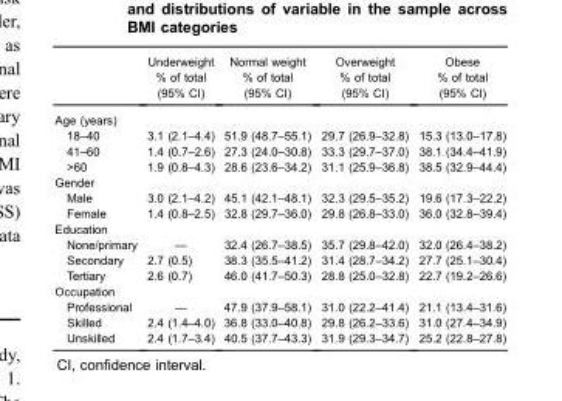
<table><thead><tr><td rowspan="2"></td><td rowspan="2">Underweight % of total (95% CI)</td><td rowspan="2">Normal weight % of total (95% CI)</td><td rowspan="2">Overweight % of total (95% CI)</td><td rowspan="2">Obese % of total (95% CI)</td></tr><tr></tr></thead><tbody><tr><td colspan="5">Age (years)</td></tr><tr><td>18–40</td><td>3.1 (2.1–4.4)</td><td>51.9 (48.7–55.1)</td><td>29.7 (26.9–32.8)</td><td>15.3 (13.0–17.8)</td></tr><tr><td>41–60</td><td>1.4 (0.7–2.6)</td><td>27.3 (24.0–30.8)</td><td>33.3 (29.7–37.0)</td><td>38.1 (34.4–41.9)</td></tr><tr><td>&gt;60</td><td>1.9 (0.8–4.3)</td><td>28.6 (23.6–34.2)</td><td>31.1 (25.9–36.8)</td><td>38.5 (32.9–44.4)</td></tr><tr><td colspan="5">Gender</td></tr><tr><td>Male</td><td>3.0 (2.1–4.2)</td><td>45.1 (42.1–48.1)</td><td>32.3 (29.5–35.2)</td><td>19.6 (17.3–22.2)</td></tr><tr><td>Female</td><td>1.4 (0.8–2.5)</td><td>32.8 (29.7–36.0)</td><td>29.8 (26.8–33.0)</td><td>36.0 (32.8–39.4)</td></tr><tr><td colspan="5">Education</td></tr><tr><td>None/primary</td><td>—</td><td>32.4 (26.7–38.5)</td><td>35.7 (29.8–42.0)</td><td>32.0 (26.4–38.2)</td></tr><tr><td>Secondary</td><td>2.7 (0.5)</td><td>38.3 (35.5–41.2)</td><td>31.4 (28.7–34.2)</td><td>27.7 (25.1–30.4)</td></tr><tr><td>Tertiary</td><td>2.6 (0.7)</td><td>46.0 (41.7–50.3)</td><td>28.8 (25.0–32.8)</td><td>22.7 (19.2–26.6)</td></tr><tr><td colspan="5">Occupation</td></tr><tr><td>Professional</td><td>—</td><td>47.9 (37.9–58.1)</td><td>31.0 (22.2–41.4)</td><td>21.1 (13.4–31.6)</td></tr><tr><td>Skilled</td><td>2.4 (1.4–4.0)</td><td>36.8 (33.0–40.8)</td><td>29.8 (26.2–33.6)</td><td>31.0 (27.4–34.9)</td></tr><tr><td>Unskilled</td><td>2.4 (1.7–3.4)</td><td>40.5 (37.7–43.3)</td><td>31.9 (29.3–34.7)</td><td>25.2 (22.8–27.8)</td></tr></tbody></table>